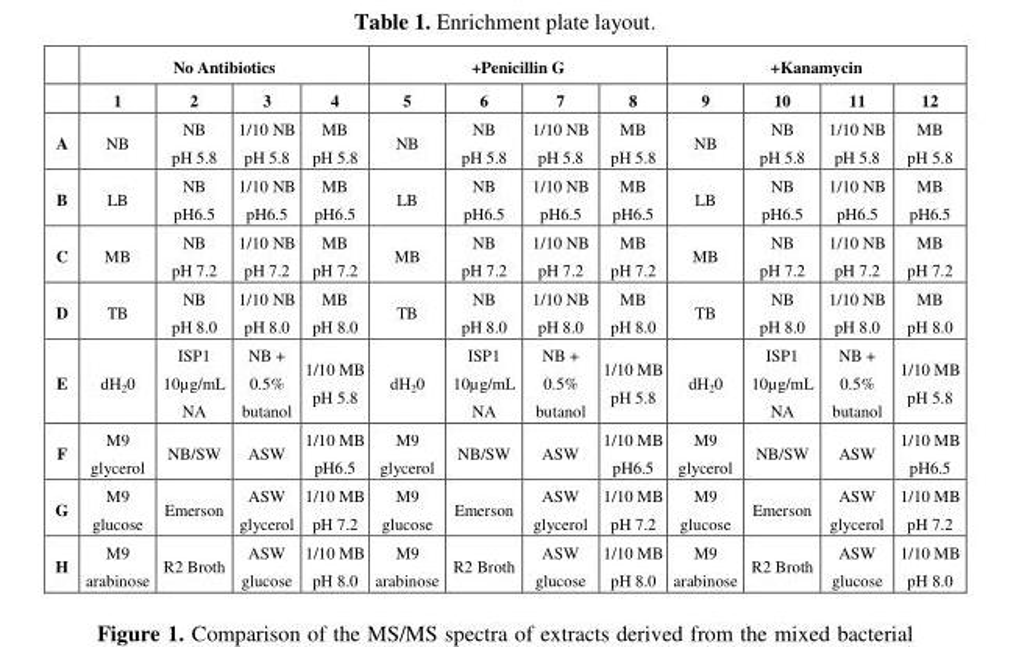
<table><thead><tr><td rowspan="2"></td><td colspan="4">No Antibiotics</td><td colspan="4">+Penicillin G</td><td colspan="4">+Kanamycin</td></tr><tr><td>1</td><td>2</td><td>3</td><td>4</td><td>5</td><td>6</td><td>7</td><td>8</td><td>9</td><td>10</td><td>11</td><td>12</td></tr></thead><tbody><tr><td>A</td><td>NB</td><td>NB pH 5.8</td><td>1/10 NB pH 5.8</td><td>MB pH 5.8</td><td>NB</td><td>NB pH 5.8</td><td>1/10 NB pH 5.8</td><td>MB pH 5.8</td><td>NB</td><td>NB pH 5.8</td><td>1/10 NB pH 5.8</td><td>MB pH 5.8</td></tr><tr><td>B</td><td>LB</td><td>NB pH6.5</td><td>1/10 NB pH6.5</td><td>MB pH6.5</td><td>LB</td><td>NB pH6.5</td><td>1/10 NB pH6.5</td><td>MB pH6.5</td><td>LB</td><td>NB pH6.5</td><td>1/10 NB pH6.5</td><td>MB pH6.5</td></tr><tr><td>C</td><td>MB</td><td>NB pH 7.2</td><td>1/10 NB pH 7.2</td><td>MB pH 7.2</td><td>MB</td><td>NB pH 7.2</td><td>1/10 NB pH 7.2</td><td>MB pH 7.2</td><td>MB</td><td>NB pH 7.2</td><td>1/10 NB pH 7.2</td><td>MB pH 7.2</td></tr><tr><td>D</td><td>TB</td><td>NB pH 8.0</td><td>1/10 NB pH 8.0</td><td>MB pH 8.0</td><td>TB</td><td>NB pH 8.0</td><td>1/10 NB pH 8.0</td><td>MB pH 8.0</td><td>TB</td><td>NB pH 8.0</td><td>1/10 NB pH 8.0</td><td>MB pH 8.0</td></tr><tr><td>E</td><td>dH<sub>2</sub>0</td><td>ISP1 10µg/mL NA</td><td>NB + 0.5% butanol</td><td>1/10 MB pH 5.8</td><td>dH<sub>2</sub>0</td><td>ISP1 10µg/mL NA</td><td>NB + 0.5% butanol</td><td>1/10 MB pH 5.8</td><td>dH<sub>2</sub>0</td><td>ISP1 10µg/mL NA</td><td>NB + 0.5% butanol</td><td>1/10 MB pH 5.8</td></tr><tr><td>F</td><td>M9 glycerol</td><td>NB/SW</td><td>ASW</td><td>1/10 MB pH6.5</td><td>M9 glycerol</td><td>NB/SW</td><td>ASW</td><td>1/10 MB pH6.5</td><td>M9 glycerol</td><td>NB/SW</td><td>ASW</td><td>1/10 MB pH6.5</td></tr><tr><td>G</td><td>M9 glucose</td><td>Emerson</td><td>ASW glycerol</td><td>1/10 MB pH 7.2</td><td>M9 glucose</td><td>Emerson</td><td>ASW glycerol</td><td>1/10 MB pH 7.2</td><td>M9 glucose</td><td>Emerson</td><td>ASW glycerol</td><td>1/10 MB pH 7.2</td></tr><tr><td>H</td><td>M9 arabinose</td><td>R2 Broth</td><td>ASW glucose</td><td>1/10 MB pH 8.0</td><td>M9 arabinose</td><td>R2 Broth</td><td>ASW glucose</td><td>1/10 MB pH 8.0</td><td>M9 arabinose</td><td>R2 Broth</td><td>ASW glucose</td><td>1/10 MB pH 8.0</td></tr></tbody></table>